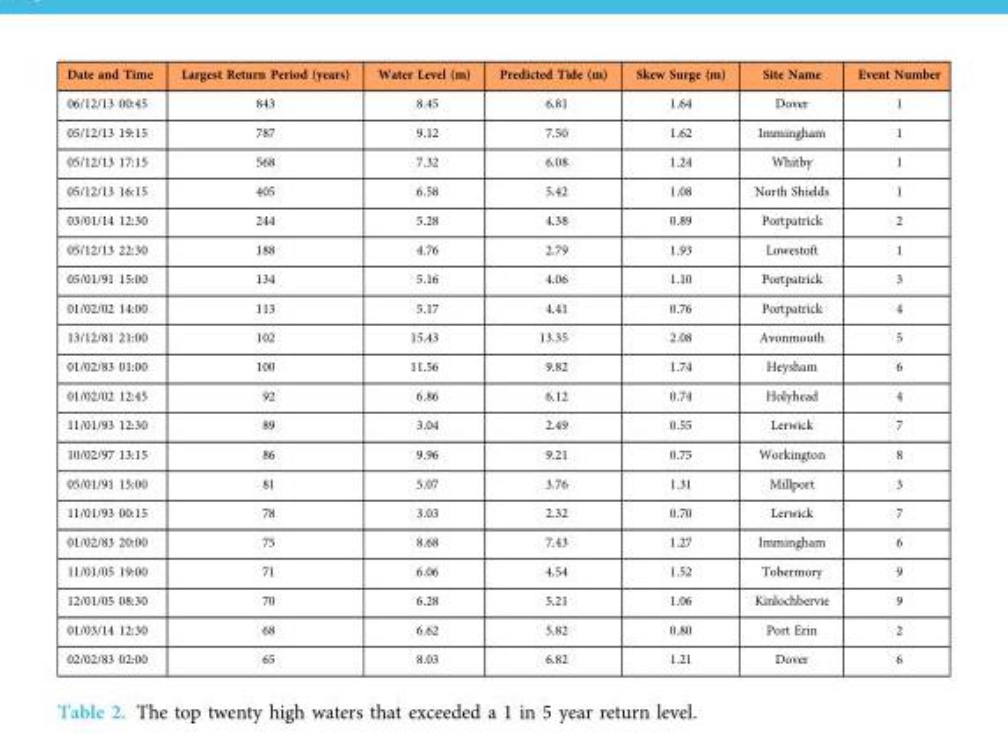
<table><thead><tr><td>Date and Time</td><td>Largest Return Period (years)</td><td>Water Level (m)</td><td>Predicted Tide (m)</td><td>Skew Surge (m)</td><td>Site Name</td><td>Event Number</td></tr></thead><tbody><tr><td>06/12/13 00:45</td><td>843</td><td>8.45</td><td>6.81</td><td>1.64</td><td>Dover</td><td>1</td></tr><tr><td>05/12/13 19:15</td><td>787</td><td>9.12</td><td>7.50</td><td>1.62</td><td>Immingham</td><td>1</td></tr><tr><td>05/12/13 17:15</td><td>568</td><td>7.32</td><td>6.08</td><td>1.24</td><td>Whitby</td><td>1</td></tr><tr><td>05/12/13 16:15</td><td>405</td><td>6.58</td><td>5.42</td><td>1.08</td><td>North Shields</td><td>1</td></tr><tr><td>03/01/14 12:30</td><td>244</td><td>5.28</td><td>4.38</td><td>0.89</td><td>Portpatrick</td><td>2</td></tr><tr><td>05/12/13 22:30</td><td>188</td><td>4.76</td><td>2.79</td><td>1.93</td><td>Lowestoft</td><td>1</td></tr><tr><td>05/01/91 15:00</td><td>134</td><td>5.16</td><td>4.06</td><td>1.10</td><td>Portpatrick</td><td>3</td></tr><tr><td>01/02/02 14:00</td><td>113</td><td>5.17</td><td>4.41</td><td>0.76</td><td>Portpatrick</td><td>4</td></tr><tr><td>13/12/81 21:00</td><td>102</td><td>15.43</td><td>13.35</td><td>2.08</td><td>Avonmouth</td><td>5</td></tr><tr><td>01/02/83 01:00</td><td>100</td><td>11.56</td><td>9.82</td><td>1.74</td><td>Heysham</td><td>6</td></tr><tr><td>01/02/02 12:45</td><td>92</td><td>6.86</td><td>6.12</td><td>0.74</td><td>Holyhead</td><td>4</td></tr><tr><td>11/01/93 12:30</td><td>89</td><td>3.04</td><td>2.49</td><td>0.55</td><td>Lerwick</td><td>7</td></tr><tr><td>10/02/97 13:15</td><td>86</td><td>9.96</td><td>9.21</td><td>0.75</td><td>Workington</td><td>8</td></tr><tr><td>05/01/91 15:00</td><td>81</td><td>5.07</td><td>3.76</td><td>1.31</td><td>Millport</td><td>3</td></tr><tr><td>11/01/93 00:15</td><td>78</td><td>3.03</td><td>2.32</td><td>0.70</td><td>Lerwick</td><td>7</td></tr><tr><td>01/02/83 20:00</td><td>75</td><td>8.68</td><td>7.43</td><td>1.27</td><td>Immingham</td><td>6</td></tr><tr><td>11/01/05 19:00</td><td>71</td><td>6.06</td><td>4.54</td><td>1.52</td><td>Tobermory</td><td>9</td></tr><tr><td>12/01/05 08:30</td><td>70</td><td>6.28</td><td>5.21</td><td>1.06</td><td>Kinlochbervie</td><td>9</td></tr><tr><td>01/03/14 12:30</td><td>68</td><td>6.62</td><td>5.82</td><td>0.80</td><td>Port Erin</td><td>2</td></tr><tr><td>02/02/83 02:00</td><td>65</td><td>8.03</td><td>6.82</td><td>1.21</td><td>Dover</td><td>6</td></tr></tbody></table>